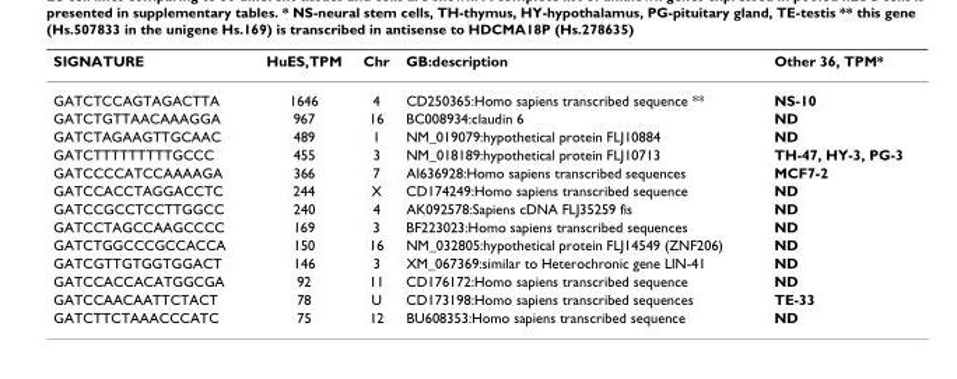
<table><thead><tr><td>SIGNATURE</td><td>HuES,TPM</td><td>Chr</td><td>GB:description</td><td>Other 36, TPM*</td></tr></thead><tbody><tr><td>GATCTCCAGTAGACTTA</td><td>1646</td><td>4</td><td>CD250365:Homo sapiens transcribed sequence **</td><td>NS-10</td></tr><tr><td>GATCTGTTAACAAAGGA</td><td>967</td><td>16</td><td>BC008934:claudin 6</td><td>ND</td></tr><tr><td>GATCTAGAAGTTGCAAC</td><td>489</td><td>1</td><td>NM_019079:hypothetical protein FLJ10884</td><td>ND</td></tr><tr><td>GATCTTTTTTTTTGCCC</td><td>455</td><td>3</td><td>NM_018189:hypothetical protein FLJ10713</td><td>TH-47, HY-3, PG-3</td></tr><tr><td>GATCCCCATCCAAAAGA</td><td>366</td><td>7</td><td>AI636928:Homo sapiens transcribed sequences</td><td>MCF7-2</td></tr><tr><td>GATCCACCTAGGACCTC</td><td>244</td><td>X</td><td>CD174249:Homo sapiens transcribed sequence</td><td>ND</td></tr><tr><td>GATCCGCCTCCTTGGCC</td><td>240</td><td>4</td><td>AK092578:Sapiens cDNA FLJ35259 fis</td><td>ND</td></tr><tr><td>GATCCTAGCCAAGCCCC</td><td>169</td><td>3</td><td>BF223023:Homo sapiens transcribed sequences</td><td>ND</td></tr><tr><td>GATCTGGCCCGCCACCA</td><td>150</td><td>16</td><td>NM_032805:hypothetical protein FLJ14549 (ZNF206)</td><td>ND</td></tr><tr><td>GATCGTTGTGGTGGACT</td><td>146</td><td>3</td><td>XM_067369:similar to Heterochronic gene LIN-41</td><td>ND</td></tr><tr><td>GATCCACCACATGGCGA</td><td>92</td><td>11</td><td>CD176172:Homo sapiens transcribed sequence</td><td>ND</td></tr><tr><td>GATCCAACAATTCTACT</td><td>78</td><td>U</td><td>CD173198:Homo sapiens transcribed sequences</td><td>TE-33</td></tr><tr><td>GATCTTCTAAACCCATC</td><td>75</td><td>12</td><td>BU608353:Homo sapiens transcribed sequence</td><td>ND</td></tr></tbody></table>